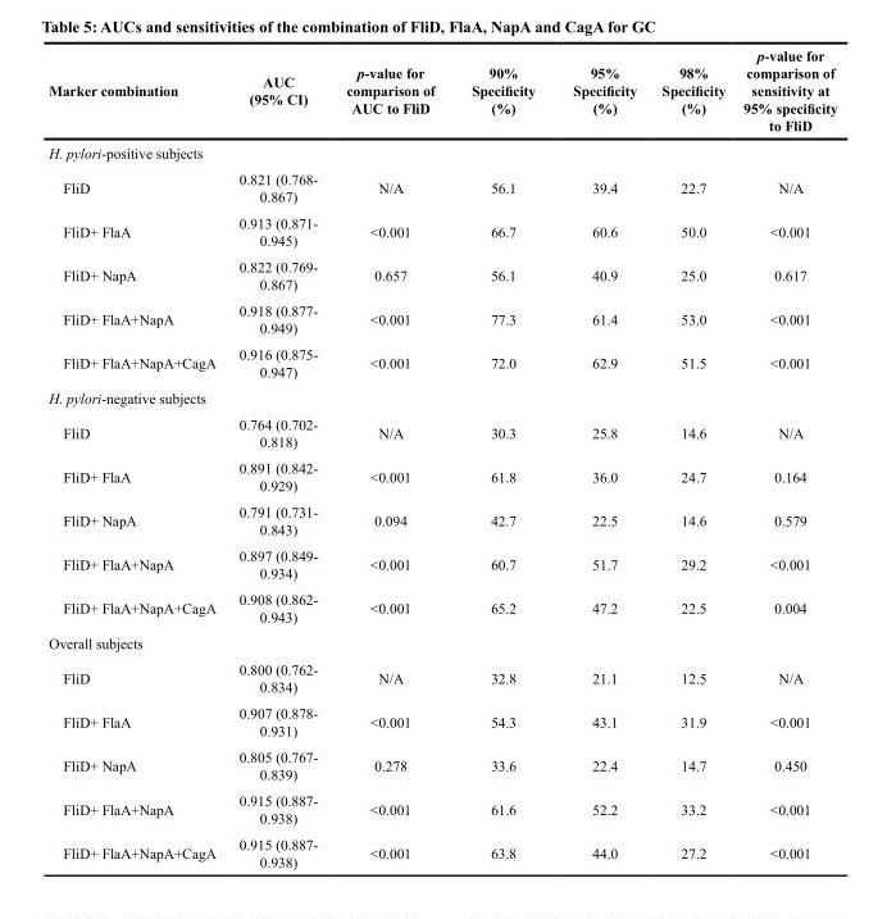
<table><thead><tr><td>Marker combination</td><td>AUC (95% CI)</td><td>p-value for comparison of AUC to FliD</td><td>90% Specificity (%)</td><td>95% Specificity (%)</td><td>98% Specificity (%)</td><td>p-value for comparison of sensitivity at 95% specificity to FliD</td></tr></thead><tbody><tr><td colspan="7">H. pylori-positive subjects</td></tr><tr><td>FliD</td><td>0.821 (0.768- 0.867)</td><td>N/A</td><td>56.1</td><td>39.4</td><td>22.7</td><td>N/A</td></tr><tr><td>FliD+ FlaA</td><td>0.913 (0.871- 0.945)</td><td>&lt;0.001</td><td>66.7</td><td>60.6</td><td>50.0</td><td>&lt;0.001</td></tr><tr><td>FliD+ NapA</td><td>0.822 (0.769- 0.867)</td><td>0.657</td><td>56.1</td><td>40.9</td><td>25.0</td><td>0.617</td></tr><tr><td>FliD+ FlaA+NapA</td><td>0.918 (0.877- 0.949)</td><td>&lt;0.001</td><td>77.3</td><td>61.4</td><td>53.0</td><td>&lt;0.001</td></tr><tr><td>FliD+ FlaA+NapA+CagA</td><td>0.916 (0.875- 0.947)</td><td>&lt;0.001</td><td>72.0</td><td>62.9</td><td>51.5</td><td>&lt;0.001</td></tr><tr><td colspan="7">H. pylori-negative subjects</td></tr><tr><td>FliD</td><td>0.764 (0.702- 0.818)</td><td>N/A</td><td>30.3</td><td>25.8</td><td>14.6</td><td>N/A</td></tr><tr><td>FliD+ FlaA</td><td>0.891 (0.842- 0.929)</td><td>&lt;0.001</td><td>61.8</td><td>36.0</td><td>24.7</td><td>0.164</td></tr><tr><td>FliD+ NapA</td><td>0.791 (0.731- 0.843)</td><td>0.094</td><td>42.7</td><td>22.5</td><td>14.6</td><td>0.579</td></tr><tr><td>FliD+ FlaA+NapA</td><td>0.897 (0.849- 0.934)</td><td>&lt;0.001</td><td>60.7</td><td>51.7</td><td>29.2</td><td>&lt;0.001</td></tr><tr><td>FliD+ FlaA+NapA+CagA</td><td>0.908 (0.862- 0.943)</td><td>&lt;0.001</td><td>65.2</td><td>47.2</td><td>22.5</td><td>0.004</td></tr><tr><td colspan="7">Overall subjects</td></tr><tr><td>FliD</td><td>0.800 (0.762- 0.834)</td><td>N/A</td><td>32.8</td><td>21.1</td><td>12.5</td><td>N/A</td></tr><tr><td>FliD+ FlaA</td><td>0.907 (0.878- 0.931)</td><td>&lt;0.001</td><td>54.3</td><td>43.1</td><td>31.9</td><td>&lt;0.001</td></tr><tr><td>FliD+ NapA</td><td>0.805 (0.767- 0.839)</td><td>0.278</td><td>33.6</td><td>22.4</td><td>14.7</td><td>0.450</td></tr><tr><td>FliD+ FlaA+NapA</td><td>0.915 (0.887- 0.938)</td><td>&lt;0.001</td><td>61.6</td><td>52.2</td><td>33.2</td><td>&lt;0.001</td></tr><tr><td>FliD+ FlaA+NapA+CagA</td><td>0.915 (0.887- 0.938)</td><td>&lt;0.001</td><td>63.8</td><td>44.0</td><td>27.2</td><td>&lt;0.001</td></tr></tbody></table>